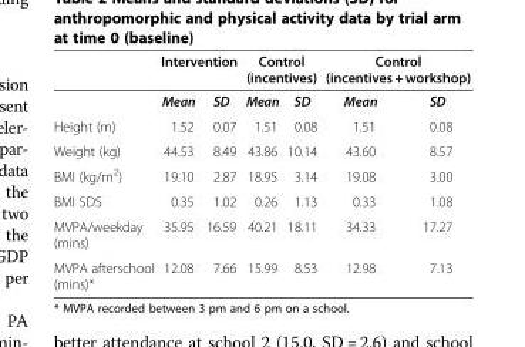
<table><thead><tr><td rowspan="2"></td><td colspan="2">Intervention</td><td colspan="2">Control (incentives)</td><td colspan="2">Control (incentives + workshop)</td></tr><tr><td>Mean</td><td>SD</td><td>Mean</td><td>SD</td><td>Mean</td><td>SD</td></tr></thead><tbody><tr><td>Height (m)</td><td>1.52</td><td>0.07</td><td>1.51</td><td>0.08</td><td>1.51</td><td>0.08</td></tr><tr><td>Weight (kg)</td><td>44.53</td><td>8.49</td><td>43.86</td><td>10.14</td><td>43.60</td><td>8.57</td></tr><tr><td>BMI (kg/m<sup>2</sup>)</td><td>19.10</td><td>2.87</td><td>18.95</td><td>3.14</td><td>19.08</td><td>3.00</td></tr><tr><td>BMI SDS</td><td>0.35</td><td>1.02</td><td>0.26</td><td>1.13</td><td>0.33</td><td>1.08</td></tr><tr><td>MVPA/weekday (mins)</td><td>35.95</td><td>16.59</td><td>40.21</td><td>18.11</td><td>34.33</td><td>17.27</td></tr><tr><td>MVPA afterschool (mins)*</td><td>12.08</td><td>7.66</td><td>15.99</td><td>8.53</td><td>12.98</td><td>7.13</td></tr></tbody></table>